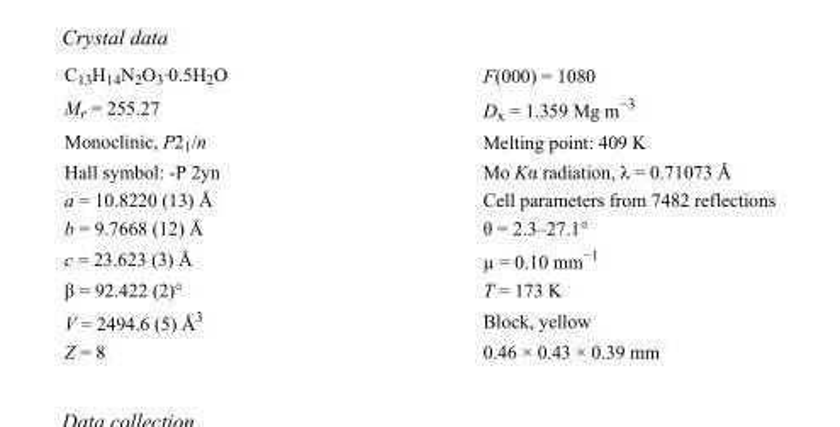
<table><tbody><tr><td>C<sub>13</sub>H<sub>14</sub>N<sub>2</sub>O<sub>3</sub>·0.5H<sub>2</sub>O</td><td>F(000) = 1080</td></tr><tr><td>M<sub>r</sub> = 255.27</td><td>D<sub>x</sub> = 1.359 Mg m<sup>−3</sup></td></tr><tr><td>Monoclinic, P2<sub>1</sub>/n</td><td>Melting point: 409 K</td></tr><tr><td>Hall symbol: -P 2yn</td><td>Mo Kα radiation, λ = 0.71073 Å</td></tr><tr><td>a = 10.8220 (13) Å</td><td>Cell parameters from 7482 reflections</td></tr><tr><td>b = 9.7668 (12) Å</td><td>θ = 2.3–27.1°</td></tr><tr><td>c = 23.623 (3) Å</td><td>µ = 0.10 mm<sup>−1</sup></td></tr><tr><td>β = 92.422 (2)°</td><td>T = 173 K</td></tr><tr><td>V = 2494.6 (5) Å<sup>3</sup></td><td>Block, yellow</td></tr><tr><td>Z = 8</td><td>0.46 × 0.43 × 0.39 mm</td></tr></tbody></table>